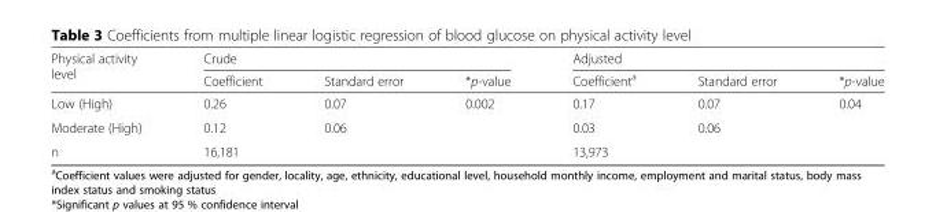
<table><thead><tr><td rowspan="2">Physical activity level</td><td colspan="3">Crude</td><td colspan="3">Adjusted</td></tr><tr><td>Coefficient</td><td>Standard error</td><td>*p-value</td><td>Coefficient<sup>a</sup></td><td>Standard error</td><td>*p-value</td></tr></thead><tbody><tr><td>Low (High)</td><td>0.26</td><td>0.07</td><td rowspan="2">0.002</td><td>0.17</td><td>0.07</td><td rowspan="2">0.04</td></tr><tr><td>Moderate (High)</td><td>0.12</td><td>0.06</td><td>0.03</td><td>0.06</td></tr><tr><td>n</td><td colspan="3">16,181</td><td colspan="3">13,973</td></tr></tbody></table>